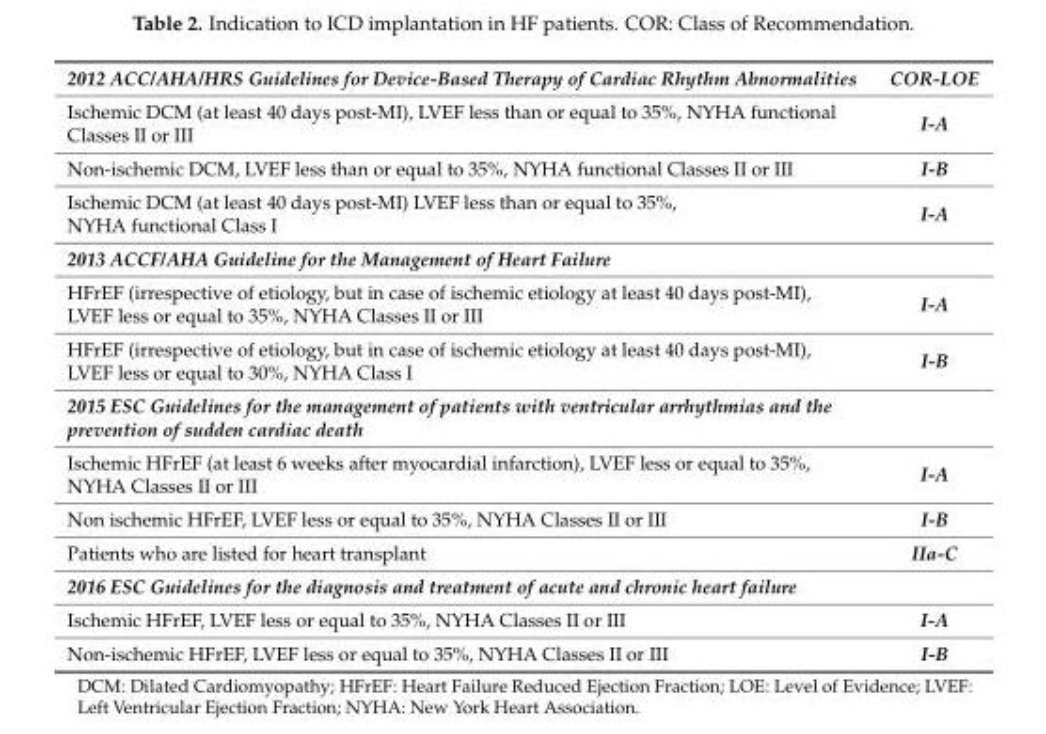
<table><tbody><tr><td>2012 ACC/AHA/HRS Guidelines for Device-Based Therapy of Cardiac Rhythm Abnormalities</td><td>COR-LOE</td></tr><tr><td>Ischemic DCM (at least 40 days post-MI), LVEF less than or equal to 35%, NYHA functional Classes II or III</td><td>I-A</td></tr><tr><td>Non-ischemic DCM, LVEF less than or equal to 35%, NYHA functional Classes II or III</td><td>I-B</td></tr><tr><td>Ischemic DCM (at least 40 days post-MI) LVEF less than or equal to 35%, NYHA functional Class I</td><td>I-A</td></tr><tr><td colspan="2">2013 ACCF/AHA Guideline for the Management of Heart Failure</td></tr><tr><td>HFrEF (irrespective of etiology, but in case of ischemic etiology at least 40 days post-MI), LVEF less or equal to 35%, NYHA Classes II or III</td><td>I-A</td></tr><tr><td>HFrEF (irrespective of etiology, but in case of ischemic etiology at least 40 days post-MI), LVEF less or equal to 30%, NYHA Class I</td><td>I-B</td></tr><tr><td colspan="2">2015 ESC Guidelines for the management of patients with ventricular arrhythmias and the prevention of sudden cardiac death</td></tr><tr><td>Ischemic HFrEF (at least 6 weeks after myocardial infarction), LVEF less or equal to 35%, NYHA Classes II or III</td><td>I-A</td></tr><tr><td>Non ischemic HFrEF, LVEF less or equal to 35%, NYHA Classes II or III</td><td>I-B</td></tr><tr><td>Patients who are listed for heart transplant</td><td>IIa-C</td></tr><tr><td colspan="2">2016 ESC Guidelines for the diagnosis and treatment of acute and chronic heart failure</td></tr><tr><td>Ischemic HFrEF, LVEF less or equal to 35%, NYHA Classes II or III</td><td>I-A</td></tr><tr><td>Non-ischemic HFrEF, LVEF less or equal to 35%, NYHA Classes II or III</td><td>I-B</td></tr></tbody></table>